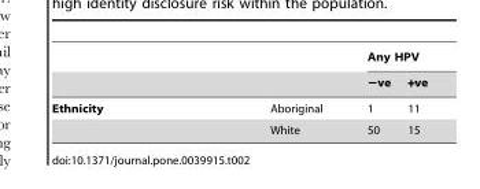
<table><thead><tr><td rowspan="2"></td><td rowspan="2"></td><td colspan="2">Any HPV</td></tr><tr><td>−ve</td><td>+ve</td></tr></thead><tbody><tr><td rowspan="2">Ethnicity</td><td>Aboriginal</td><td>1</td><td>11</td></tr><tr><td>White</td><td>50</td><td>15</td></tr></tbody></table>